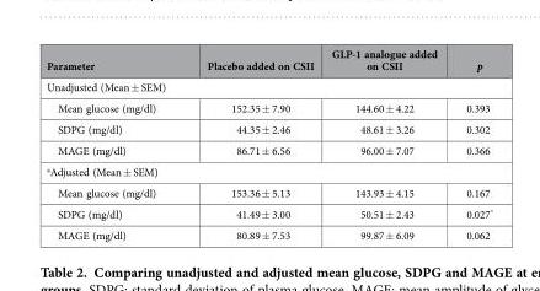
<table><thead><tr><td>Parameter</td><td>Placebo added on CSII</td><td>GLP-1 analogue added on CSII</td><td>p</td></tr></thead><tbody><tr><td colspan="4">Unadjusted (Mean ± SEM)</td></tr><tr><td>Mean glucose (mg/dl)</td><td>152.35 ± 7.90</td><td>144.60 ± 4.22</td><td>0.393</td></tr><tr><td>SDPG (mg/dl)</td><td>44.35 ± 2.46</td><td>48.61 ± 3.26</td><td>0.302</td></tr><tr><td>MAGE (mg/dl)</td><td>86.71 ± 6.56</td><td>96.00 ± 7.07</td><td>0.366</td></tr><tr><td colspan="4"><sup>a</sup>Adjusted (Mean ± SEM)</td></tr><tr><td>Mean glucose (mg/dl)</td><td>153.36 ± 5.13</td><td>143.93 ± 4.15</td><td>0.167</td></tr><tr><td>SDPG (mg/dl)</td><td>41.49 ± 3.00</td><td>50.51 ± 2.43</td><td>0.027*</td></tr><tr><td>MAGE (mg/dl)</td><td>80.89 ± 7.53</td><td>99.87 ± 6.09</td><td>0.062</td></tr></tbody></table>